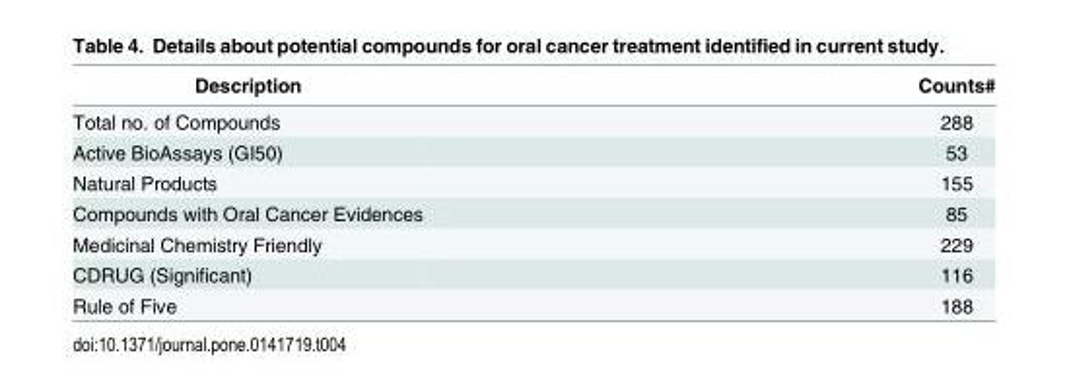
<table><thead><tr><td>Description</td><td>Counts#</td></tr></thead><tbody><tr><td>Total no. of Compounds</td><td>288</td></tr><tr><td>Active BioAssays (GI50)</td><td>53</td></tr><tr><td>Natural Products</td><td>155</td></tr><tr><td>Compounds with Oral Cancer Evidences</td><td>85</td></tr><tr><td>Medicinal Chemistry Friendly</td><td>229</td></tr><tr><td>CDRUG (Significant)</td><td>116</td></tr><tr><td>Rule of Five</td><td>188</td></tr></tbody></table>